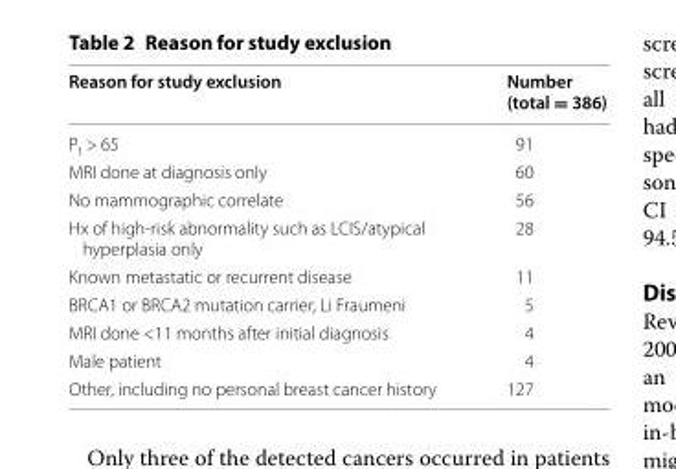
<table><thead><tr><td>Reason for study exclusion</td><td>Number (total = 386)</td></tr></thead><tbody><tr><td>P<sub>t</sub> &gt; 65</td><td>91</td></tr><tr><td>MRI done at diagnosis only</td><td>60</td></tr><tr><td>No mammographic correlate</td><td>56</td></tr><tr><td>Hx of high-risk abnormality such as LCIS/atypical hyperplasia only</td><td>28</td></tr><tr><td>Known metastatic or recurrent disease</td><td>11</td></tr><tr><td>BRCA1 or BRCA2 mutation carrier, Li Fraumeni</td><td>5</td></tr><tr><td>MRI done &lt;11 months after initial diagnosis</td><td>4</td></tr><tr><td>Male patient</td><td>4</td></tr><tr><td>Other, including no personal breast cancer history</td><td>127</td></tr></tbody></table>